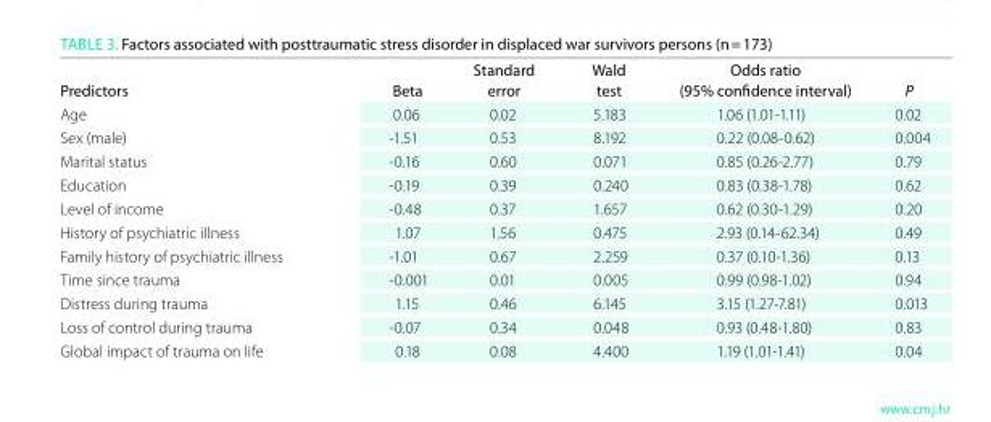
<table><thead><tr><td>Predictors</td><td>Beta</td><td>Standard error</td><td>Wald test</td><td>odds ratio (95% confidence interval)</td><td>P</td></tr></thead><tbody><tr><td>Age</td><td>0.06</td><td>0.02</td><td>5.183</td><td>1.06 (1.01-1.11)</td><td>0.02</td></tr><tr><td>Sex (male)</td><td>-1.51</td><td>0.53</td><td>8.192</td><td>0.22 (0.08-0.62)</td><td>0.004</td></tr><tr><td>Marital status</td><td>-0.16</td><td>0.60</td><td>0.071</td><td>0.85 (0.26-2.77)</td><td>0.79</td></tr><tr><td>Education</td><td>-0.19</td><td>0.39</td><td>0.240</td><td>0.83 (0.38-1.78)</td><td>0.62</td></tr><tr><td>Level of income</td><td>-0.48</td><td>0.37</td><td>1.657</td><td>0.62 (0.30-1.29)</td><td>0.20</td></tr><tr><td>History of psychiatric illness</td><td>1.07</td><td>1.56</td><td>0.475</td><td>2.93 (0.14-62.34)</td><td>0.49</td></tr><tr><td>Family history of psychiatric illness</td><td>-1.01</td><td>0.67</td><td>2.259</td><td>0.37 (0.10-1.36)</td><td>0.13</td></tr><tr><td>Time since trauma</td><td>-0.001</td><td>0.01</td><td>0.005</td><td>0.99 (0.98-1.02)</td><td>0.94</td></tr><tr><td>Distress during trauma</td><td>1.15</td><td>0.46</td><td>6.145</td><td>3.15 (1.27-7.81)</td><td>0.013</td></tr><tr><td>Loss of control during trauma</td><td>-0.07</td><td>0.34</td><td>0.048</td><td>0.93 (0.48-1.80)</td><td>0.83</td></tr><tr><td>Global impact of trauma on life</td><td>0.18</td><td>0.08</td><td>4.400</td><td>1.19 (1.01-1.41)</td><td>0.04</td></tr></tbody></table>